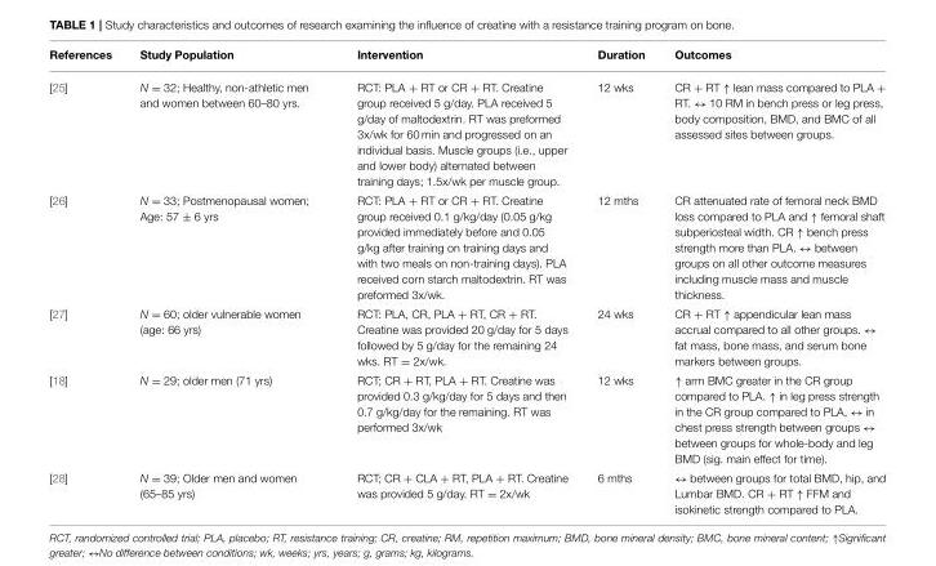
<table><thead><tr><td>References</td><td>Study Population</td><td>Intervention</td><td>Duration</td><td>Outcomes</td></tr></thead><tbody><tr><td>[25]</td><td>N = 32; Healthy, non-athletic men and women between 60–80 yrs.</td><td>RCT: PLA + RT or CR + RT. Creatine group received 5 g/day. PLA received 5 g/day of maltodextrin. RT was preformed 3x/wk for 60 min and progressed on an individual basis. Muscle groups (i.e., upper and lower body) alternated between training days; 1.5x/wk per muscle group.</td><td>12 wks</td><td>CR + RT ↑ lean mass compared to PLA + RT. ↔ 10 RM in bench press or leg press, body composition, BMD, and BMC of all assessed sites between groups.</td></tr><tr><td>[26]</td><td>N = 33; Postmenopausal women; Age: 57 ± 6 yrs</td><td>RCT: PLA + RT or CR + RT. Creatine group received 0.1 g/kg/day (0.05 g/kg provided immediately before and 0.05 g/kg after training on training days and with two meals on non-training days). PLA received corn starch maltodextrin. RT was preformed 3x/wk.</td><td>12 mths</td><td>CR attenuated rate of femoral neck BMD loss compared to PLA and ↑ femoral shaft subperiosteal width. CR ↑ bench press strength more than PLA. ↔ between groups on all other outcome measures including muscle mass and muscle thickness.</td></tr><tr><td>[27]</td><td>N = 60; older vulnerable women (age: 66 yrs)</td><td>RCT: PLA, CR, PLA + RT, CR + RT. Creatine was provided 20 g/day for 5 days followed by 5 g/day for the remaining 24 wks. RT = 2x/wk.</td><td>24 wks</td><td>CR + RT ↑ appendicular lean mass accrual compared to all other groups. ↔ fat mass, bone mass, and serum bone markers between groups.</td></tr><tr><td>[18]</td><td>N = 29; older men (71 yrs)</td><td>RCT; CR + RT, PLA + RT. Creatine was provided 0.3 g/kg/day for 5 days and then 0.7 g/kg/day for the remaining. RT was performed 3x/wk</td><td>12 wks</td><td>↑ arm BMC greater in the CR group compared to PLA. ↑ in leg press strength in the CR group compared to PLA, ↔ in chest press strength between groups ↔ between groups for whole-body and leg BMD (sig. main effect for time).</td></tr><tr><td>[28]</td><td>N = 39; Older men and women (65–85 yrs)</td><td>RCT; CR + CLA + RT, PLA + RT. Creatine was provided 5 g/day. RT = 2x/wk</td><td>6 mths</td><td>↔ between groups for total BMD, hip, and Lumbar BMD. CR + RT ↑ FFM and isokinetic strength compared to PLA.</td></tr></tbody></table>